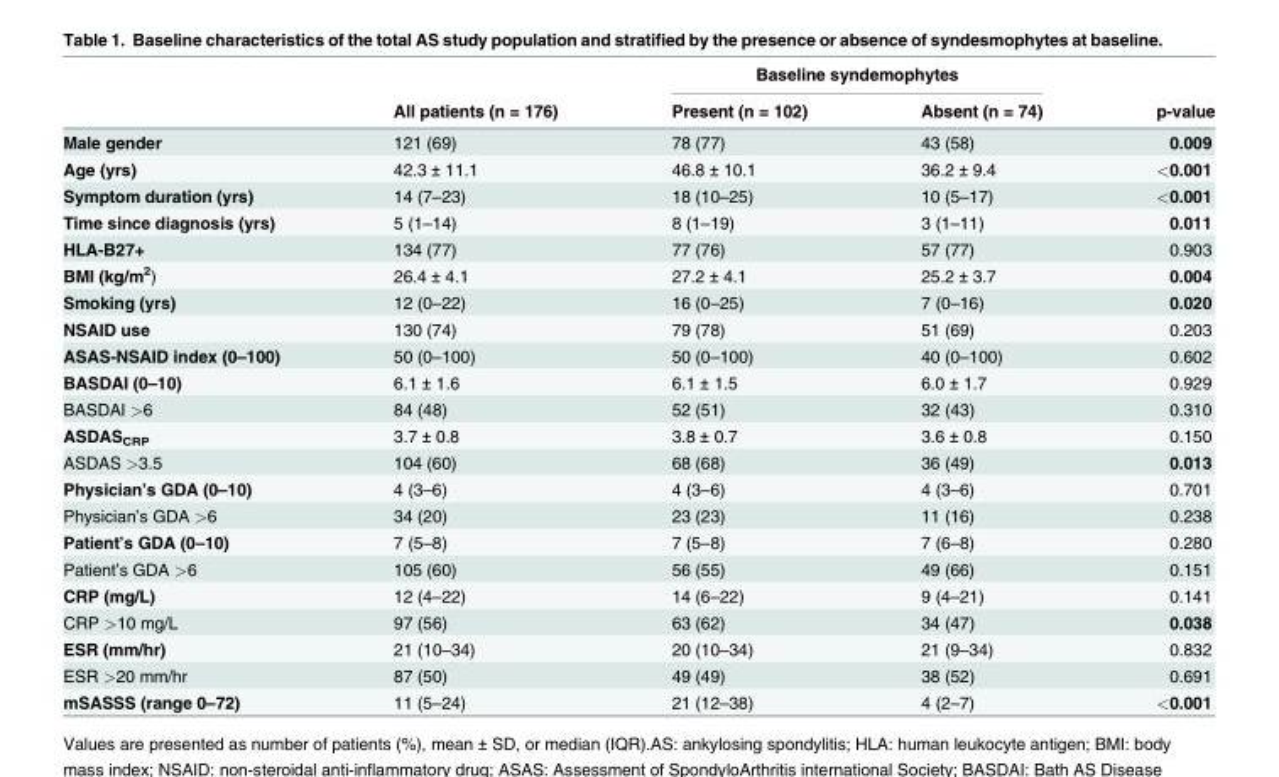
<table><thead><tr><td rowspan="2"></td><td rowspan="2">All patients (n = 176)</td><td colspan="2">Baseline syndemophytes</td><td rowspan="2">p-value</td></tr><tr><td>Present (n = 102)</td><td>Absent (n = 74)</td></tr></thead><tbody><tr><td>Male gender</td><td>121 (69)</td><td>78 (77)</td><td>43 (58)</td><td>0.009</td></tr><tr><td>Age (yrs)</td><td>42.3 ± 11.1</td><td>46.8 ± 10.1</td><td>36.2 ± 9.4</td><td>&lt;0.001</td></tr><tr><td>Symptom duration (yrs)</td><td>14 (7–23)</td><td>18 (10–25)</td><td>10 (5–17)</td><td>&lt;0.001</td></tr><tr><td>Time since diagnosis (yrs)</td><td>5 (1–14)</td><td>8 (1–19)</td><td>3 (1–11)</td><td>0.011</td></tr><tr><td>HLA-B27+</td><td>134 (77)</td><td>77 (76)</td><td>57 (77)</td><td>0.903</td></tr><tr><td>BMI (kg/m<sup>2</sup>)</td><td>26.4 ± 4.1</td><td>27.2 ± 4.1</td><td>25.2 ± 3.7</td><td>0.004</td></tr><tr><td>Smoking (yrs)</td><td>12 (0–22)</td><td>16 (0–25)</td><td>7 (0–16)</td><td>0.020</td></tr><tr><td>NSAID use</td><td>130 (74)</td><td>79 (78)</td><td>51 (69)</td><td>0.203</td></tr><tr><td>ASAS-NSAID index (0–100)</td><td>50 (0–100)</td><td>50 (0–100)</td><td>40 (0–100)</td><td>0.602</td></tr><tr><td>BASDAI (0–10)</td><td>6.1 ± 1.6</td><td>6.1 ± 1.5</td><td>6.0 ± 1.7</td><td>0.929</td></tr><tr><td>BASDAI &gt;6</td><td>84 (48)</td><td>52 (51)</td><td>32 (43)</td><td>0.310</td></tr><tr><td>ASDAS<sub>CRP</sub></td><td>3.7 ± 0.8</td><td>3.8 ± 0.7</td><td>3.6 ± 0.8</td><td>0.150</td></tr><tr><td>ASDAS &gt;3.5</td><td>104 (60)</td><td>68 (68)</td><td>36 (49)</td><td>0.013</td></tr><tr><td>Physician’s GDA (0–10)</td><td>4 (3–6)</td><td>4 (3–6)</td><td>4 (3–6)</td><td>0.701</td></tr><tr><td>Physician’s GDA &gt;6</td><td>34 (20)</td><td>23 (23)</td><td>11 (16)</td><td>0.238</td></tr><tr><td>Patient’s GDA (0–10)</td><td>7 (5–8)</td><td>7 (5–8)</td><td>7 (6–8)</td><td>0.280</td></tr><tr><td>Patient’s GDA &gt;6</td><td>105 (60)</td><td>56 (55)</td><td>49 (66)</td><td>0.151</td></tr><tr><td>CRP (mg/L)</td><td>12 (4–22)</td><td>14 (6–22)</td><td>9 (4–21)</td><td>0.141</td></tr><tr><td>CRP &gt;10 mg/L</td><td>97 (56)</td><td>63 (62)</td><td>34 (47)</td><td>0.038</td></tr><tr><td>ESR (mm/hr)</td><td>21 (10–34)</td><td>20 (10–34)</td><td>21 (9–34)</td><td>0.832</td></tr><tr><td>ESR &gt;20 mm/hr</td><td>87 (50)</td><td>49 (49)</td><td>38 (52)</td><td>0.691</td></tr><tr><td>mSASSS (range 0–72)</td><td>11 (5–24)</td><td>21 (12–38)</td><td>4 (2–7)</td><td>&lt;0.001</td></tr></tbody></table>